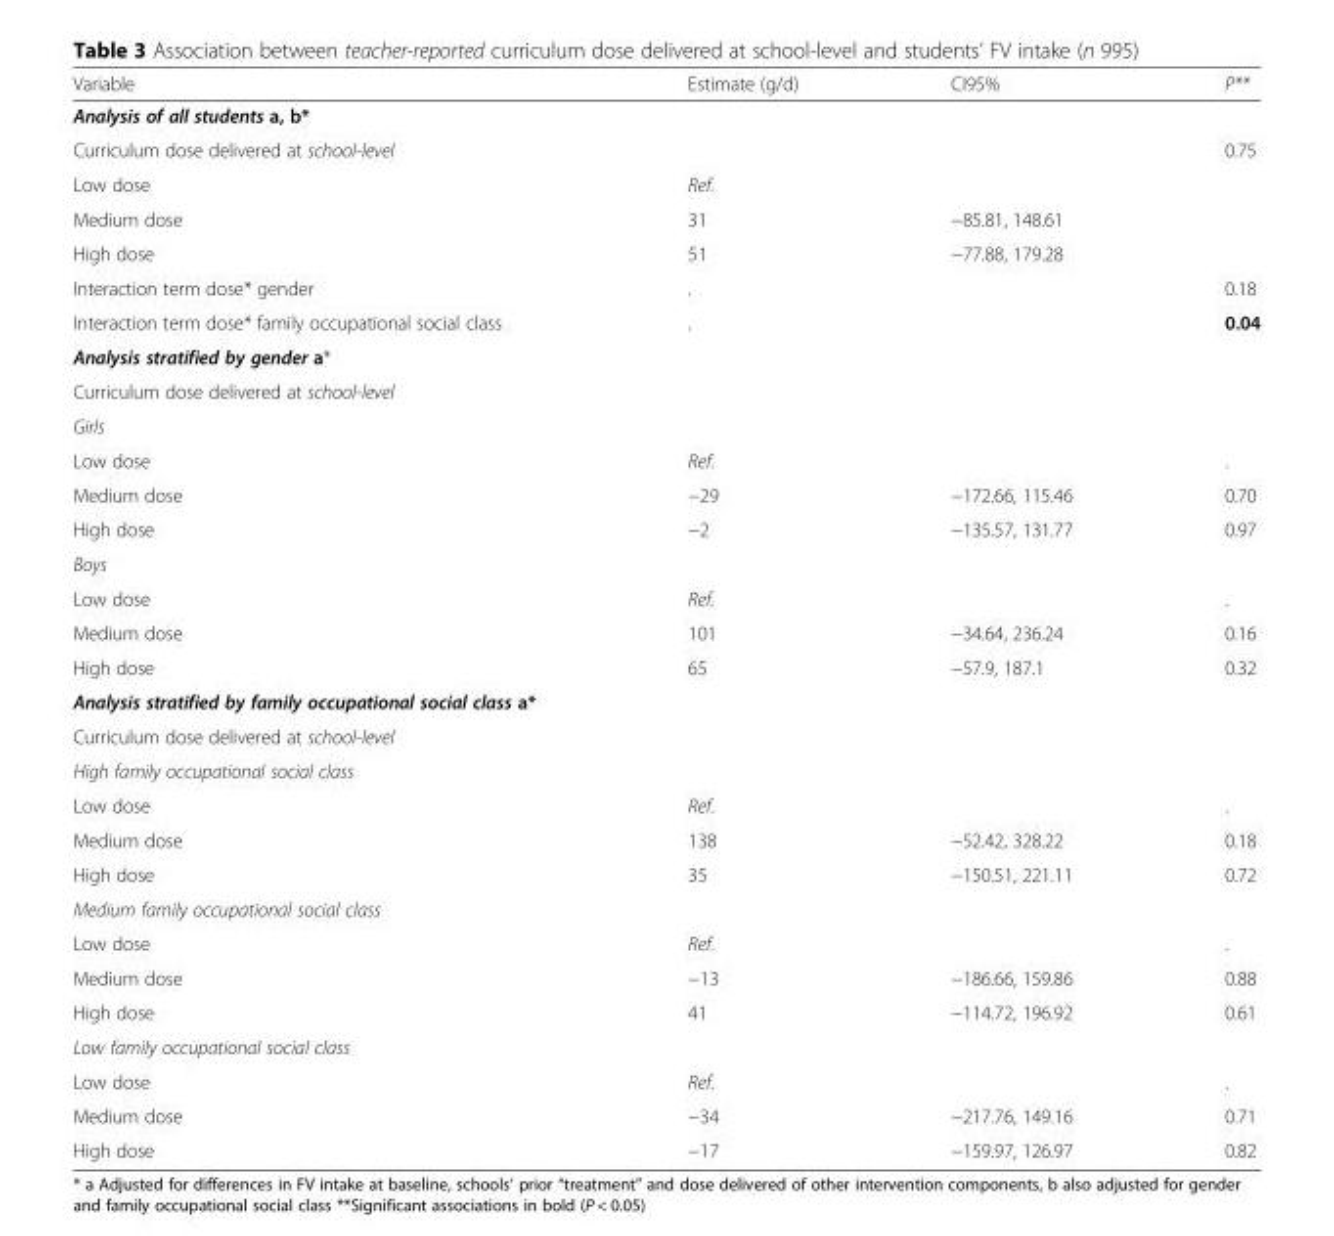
<table><thead><tr><td>Variable</td><td>Estimate (g/d)</td><td>CI95%</td><td>P**</td></tr></thead><tbody><tr><td colspan="4">Analysis of all students a, b*</td></tr><tr><td>Curriculum dose delivered at school-level</td><td></td><td></td><td>0.75</td></tr><tr><td>Low dose</td><td>Ref.</td><td></td><td></td></tr><tr><td>Medium dose</td><td>31</td><td>−85.81, 148.61</td><td></td></tr><tr><td>High dose</td><td>51</td><td>−77.88, 179.28</td><td></td></tr><tr><td>Interaction term dose* gender</td><td>.</td><td></td><td>0.18</td></tr><tr><td>Interaction term dose* family occupational social class</td><td>.</td><td></td><td>0.04</td></tr><tr><td colspan="4">Analysis stratified by gender a*</td></tr><tr><td colspan="4">Curriculum dose delivered at school-level</td></tr><tr><td colspan="4">Girls</td></tr><tr><td>Low dose</td><td>Ref.</td><td></td><td>.</td></tr><tr><td>Medium dose</td><td>−29</td><td>−172.66, 115.46</td><td>0.70</td></tr><tr><td>High dose</td><td>−2</td><td>−135.57, 131.77</td><td>0.97</td></tr><tr><td colspan="4">Boys</td></tr><tr><td>Low dose</td><td>Ref.</td><td></td><td>.</td></tr><tr><td>Medium dose</td><td>101</td><td>−34.64, 236.24</td><td>0.16</td></tr><tr><td>High dose</td><td>65</td><td>−57.9, 187.1</td><td>0.32</td></tr><tr><td colspan="4">Analysis stratified by family occupational social class a*</td></tr><tr><td colspan="4">Curriculum dose delivered at school-level</td></tr><tr><td colspan="4">High family occupational social class</td></tr><tr><td>Low dose</td><td>Ref.</td><td></td><td>.</td></tr><tr><td>Medium dose</td><td>138</td><td>−52.42, 328.22</td><td>0.18</td></tr><tr><td>High dose</td><td>35</td><td>−150.51, 221.11</td><td>0.72</td></tr><tr><td colspan="4">Medium family occupational social class</td></tr><tr><td>Low dose</td><td>Ref.</td><td></td><td>.</td></tr><tr><td>Medium dose</td><td>−13</td><td>−186.66, 159.86</td><td>0.88</td></tr><tr><td>High dose</td><td>41</td><td>−114.72, 196.92</td><td>0.61</td></tr><tr><td colspan="4">Low family occupational social class</td></tr><tr><td>Low dose</td><td>Ref.</td><td></td><td>.</td></tr><tr><td>Medium dose</td><td>−34</td><td>−217.76, 149.16</td><td>0.71</td></tr><tr><td>High dose</td><td>−17</td><td>−159.97, 126.97</td><td>0.82</td></tr></tbody></table>